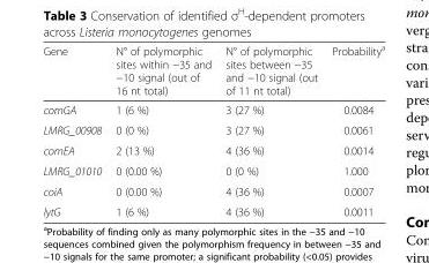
<table><thead><tr><td>Gene</td><td>N° of polymorphic sites within −35 and −10 signal (out of 16 nt total)</td><td>N° of polymorphic sites between −35 and −10 signal (out of 11 nt total)</td><td>Probability<sup>a</sup></td></tr></thead><tbody><tr><td>comGA</td><td>1 (6 %)</td><td>3 (27 %)</td><td>0.0084</td></tr><tr><td>LMRG_00908</td><td>0 (0 %)</td><td>3 (27 %)</td><td>0.0061</td></tr><tr><td>comEA</td><td>2 (13 %)</td><td>4 (36 %)</td><td>0.0014</td></tr><tr><td>LMRG_01010</td><td>0 (0.00 %)</td><td>0 (0 %)</td><td>1.000</td></tr><tr><td>coiA</td><td>0 (0.00 %)</td><td>4 (36 %)</td><td>0.0007</td></tr><tr><td>lytG</td><td>1 (6 %)</td><td>4 (36 %)</td><td>0.0011</td></tr></tbody></table>